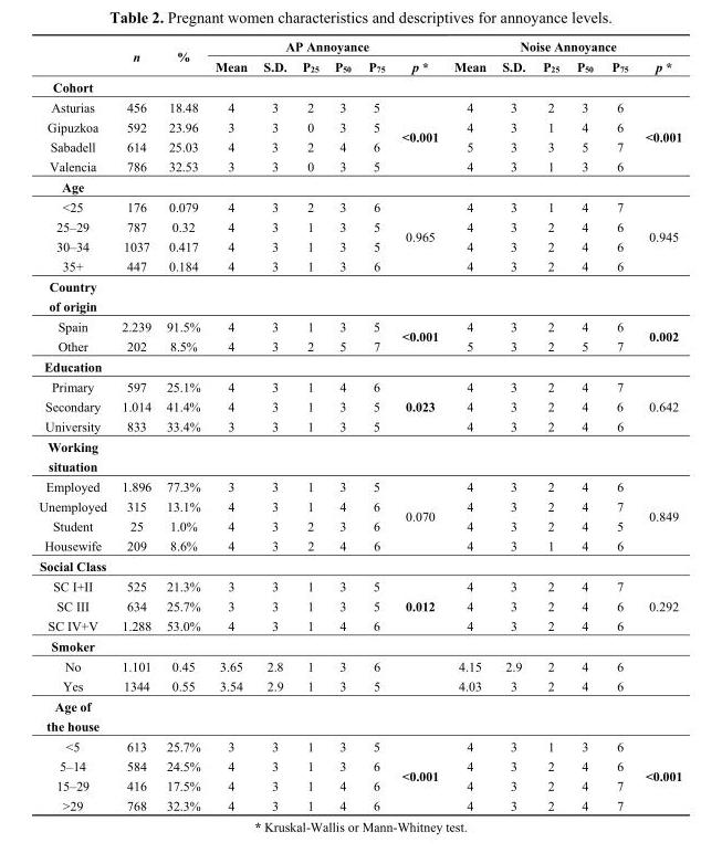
<table><thead><tr><td rowspan="2"></td><td rowspan="2">n</td><td rowspan="2">%</td><td colspan="6">AP Annoyance</td><td colspan="6">Noise Annoyance</td></tr><tr><td>Mean</td><td>S.D.</td><td>P<sub>25</sub></td><td>P<sub>50</sub></td><td>P<sub>75</sub></td><td>p *</td><td>Mean</td><td>S.D.</td><td>P<sub>25</sub></td><td>P<sub>50</sub></td><td>P<sub>75</sub></td><td>p *</td></tr></thead><tbody><tr><td colspan="15">Cohort</td></tr><tr><td>Asturias</td><td>456</td><td>18.48</td><td>4</td><td>3</td><td>2</td><td>3</td><td>5</td><td rowspan="4">&lt;0.001</td><td>4</td><td>3</td><td>2</td><td>3</td><td>6</td><td rowspan="4">&lt;0.001</td></tr><tr><td>Gipuzkoa</td><td>592</td><td>23.96</td><td>3</td><td>3</td><td>0</td><td>3</td><td>5</td><td>4</td><td>3</td><td>1</td><td>4</td><td>6</td></tr><tr><td>Sabadell</td><td>614</td><td>25.03</td><td>4</td><td>3</td><td>2</td><td>4</td><td>6</td><td>5</td><td>3</td><td>3</td><td>5</td><td>7</td></tr><tr><td>Valencia</td><td>786</td><td>32.53</td><td>3</td><td>3</td><td>0</td><td>3</td><td>5</td><td>4</td><td>3</td><td>1</td><td>3</td><td>6</td></tr><tr><td colspan="15">Age</td></tr><tr><td>&lt;25</td><td>176</td><td>0.079</td><td>4</td><td>3</td><td>2</td><td>3</td><td>6</td><td rowspan="4">0.965</td><td>4</td><td>3</td><td>1</td><td>4</td><td>7</td><td rowspan="4">0.945</td></tr><tr><td>25–29</td><td>787</td><td>0.32</td><td>4</td><td>3</td><td>1</td><td>3</td><td>5</td><td>4</td><td>3</td><td>2</td><td>4</td><td>6</td></tr><tr><td>30–34</td><td>1037</td><td>0.417</td><td>4</td><td>3</td><td>1</td><td>3</td><td>5</td><td>4</td><td>3</td><td>2</td><td>4</td><td>6</td></tr><tr><td>35+</td><td>447</td><td>0.184</td><td>4</td><td>3</td><td>1</td><td>3</td><td>6</td><td>4</td><td>3</td><td>2</td><td>4</td><td>6</td></tr><tr><td colspan="15">Country of origin</td></tr><tr><td>Spain</td><td>2.239</td><td>91.5%</td><td>4</td><td>3</td><td>1</td><td>3</td><td>5</td><td rowspan="2">&lt;0.001</td><td>4</td><td>3</td><td>2</td><td>4</td><td>6</td><td rowspan="2">0.002</td></tr><tr><td>Other</td><td>202</td><td>8.5%</td><td>4</td><td>3</td><td>2</td><td>5</td><td>7</td><td>5</td><td>3</td><td>2</td><td>5</td><td>7</td></tr><tr><td colspan="15">Education</td></tr><tr><td>Primary</td><td>597</td><td>25.1%</td><td>4</td><td>3</td><td>1</td><td>4</td><td>6</td><td rowspan="3">0.023</td><td>4</td><td>3</td><td>2</td><td>4</td><td>7</td><td rowspan="3">0.642</td></tr><tr><td>Secondary</td><td>1.014</td><td>41.4%</td><td>4</td><td>3</td><td>1</td><td>3</td><td>5</td><td>4</td><td>3</td><td>2</td><td>4</td><td>6</td></tr><tr><td>University</td><td>833</td><td>33.4%</td><td>3</td><td>3</td><td>1</td><td>3</td><td>5</td><td>4</td><td>3</td><td>2</td><td>4</td><td>6</td></tr><tr><td colspan="15">Working situation</td></tr><tr><td>Employed</td><td>1.896</td><td>77.3%</td><td>3</td><td>3</td><td>1</td><td>3</td><td>5</td><td rowspan="4">0.070</td><td>4</td><td>3</td><td>2</td><td>4</td><td>6</td><td rowspan="4">0.849</td></tr><tr><td>Unemployed</td><td>315</td><td>13.1%</td><td>4</td><td>3</td><td>1</td><td>4</td><td>6</td><td>4</td><td>3</td><td>2</td><td>4</td><td>7</td></tr><tr><td>Student</td><td>25</td><td>1.0%</td><td>4</td><td>3</td><td>2</td><td>3</td><td>6</td><td>4</td><td>3</td><td>2</td><td>4</td><td>5</td></tr><tr><td>Housewife</td><td>209</td><td>8.6%</td><td>4</td><td>3</td><td>2</td><td>4</td><td>6</td><td>4</td><td>3</td><td>1</td><td>4</td><td>6</td></tr><tr><td colspan="15">Social Class</td></tr><tr><td>SC I+II</td><td>525</td><td>21.3%</td><td>3</td><td>3</td><td>1</td><td>3</td><td>5</td><td rowspan="3">0.012</td><td>4</td><td>3</td><td>2</td><td>4</td><td>7</td><td rowspan="3">0.292</td></tr><tr><td>SC III</td><td>634</td><td>25.7%</td><td>3</td><td>3</td><td>1</td><td>3</td><td>5</td><td>4</td><td>3</td><td>2</td><td>4</td><td>6</td></tr><tr><td>SC IV+V</td><td>1.288</td><td>53.0%</td><td>4</td><td>3</td><td>1</td><td>4</td><td>6</td><td>4</td><td>3</td><td>2</td><td>4</td><td>6</td></tr><tr><td colspan="15">Smoker</td></tr><tr><td>No</td><td>1.101</td><td>0.45</td><td>3.65</td><td>2.8</td><td>1</td><td>3</td><td>6</td><td rowspan="2"></td><td>4.15</td><td>2.9</td><td>2</td><td>4</td><td>6</td><td rowspan="2"></td></tr><tr><td>Yes</td><td>1344</td><td>0.55</td><td>3.54</td><td>2.9</td><td>1</td><td>3</td><td>5</td><td>4.03</td><td>3</td><td>2</td><td>4</td><td>6</td></tr><tr><td colspan="15">Age of the house</td></tr><tr><td>&lt;5</td><td>613</td><td>25.7%</td><td>3</td><td>3</td><td>1</td><td>3</td><td>5</td><td rowspan="4">&lt;0.001</td><td>4</td><td>3</td><td>1</td><td>3</td><td>6</td><td rowspan="4">&lt;0.001</td></tr><tr><td>5–14</td><td>584</td><td>24.5%</td><td>4</td><td>3</td><td>1</td><td>3</td><td>6</td><td>4</td><td>3</td><td>2</td><td>4</td><td>6</td></tr><tr><td>15–29</td><td>416</td><td>17.5%</td><td>4</td><td>3</td><td>1</td><td>4</td><td>6</td><td>4</td><td>3</td><td>2</td><td>4</td><td>7</td></tr><tr><td>&gt;29</td><td>768</td><td>32.3%</td><td>4</td><td>3</td><td>1</td><td>4</td><td>6</td><td>4</td><td>3</td><td>2</td><td>4</td><td>7</td></tr></tbody></table>